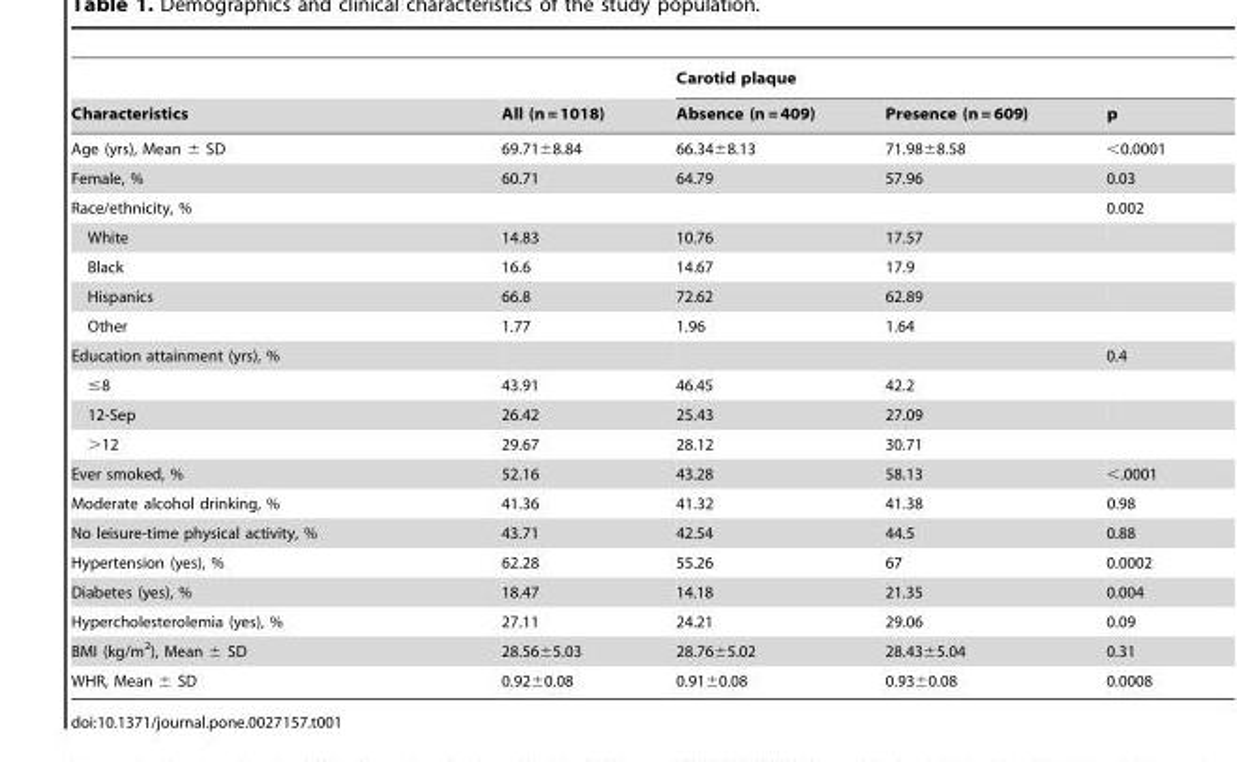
<table><thead><tr><td rowspan="2">Characteristics</td><td rowspan="2">All (n = 1018)</td><td colspan="3">Carotid plaque</td></tr><tr><td>Absence (n = 409)</td><td>Presence (n = 609)</td><td>p</td></tr></thead><tbody><tr><td>Age (yrs), Mean ± SD</td><td>69.71±8.84</td><td>66.34±8.13</td><td>71.98±8.58</td><td>&lt;0.0001</td></tr><tr><td>Female, %</td><td>60.71</td><td>64.79</td><td>57.96</td><td>0.03</td></tr><tr><td>Race/ethnicity, %</td><td></td><td></td><td></td><td>0.002</td></tr><tr><td>White</td><td>14.83</td><td>10.76</td><td>17.57</td><td></td></tr><tr><td>Black</td><td>16.6</td><td>14.67</td><td>17.9</td><td></td></tr><tr><td>Hispanics</td><td>66.8</td><td>72.62</td><td>62.89</td><td></td></tr><tr><td>Other</td><td>1.77</td><td>1.96</td><td>1.64</td><td></td></tr><tr><td>Education attainment (yrs), %</td><td></td><td></td><td></td><td>0.4</td></tr><tr><td>≤8</td><td>43.91</td><td>46.45</td><td>42.2</td><td></td></tr><tr><td>12-Sep</td><td>26.42</td><td>25.43</td><td>27.09</td><td></td></tr><tr><td>&gt;12</td><td>29.67</td><td>28.12</td><td>30.71</td><td></td></tr><tr><td>Ever smoked, %</td><td>52.16</td><td>43.28</td><td>58.13</td><td>&lt;.0001</td></tr><tr><td>Moderate alcohol drinking, %</td><td>41.36</td><td>41.32</td><td>41.38</td><td>0.98</td></tr><tr><td>No leisure-time physical activity, %</td><td>43.71</td><td>42.54</td><td>44.5</td><td>0.88</td></tr><tr><td>Hypertension (yes), %</td><td>62.28</td><td>55.26</td><td>67</td><td>0.0002</td></tr><tr><td>Diabetes (yes), %</td><td>18.47</td><td>14.18</td><td>21.35</td><td>0.004</td></tr><tr><td>Hypercholesterolemia (yes), %</td><td>27.11</td><td>24.21</td><td>29.06</td><td>0.09</td></tr><tr><td>BMI (kg/m<sup>2</sup>), Mean ± SD</td><td>28.56±5.03</td><td>28.76±5.02</td><td>28.43±5.04</td><td>0.31</td></tr><tr><td>WHR, Mean ± SD</td><td>0.92±0.08</td><td>0.91±0.08</td><td>0.93±0.08</td><td>0.0008</td></tr></tbody></table>